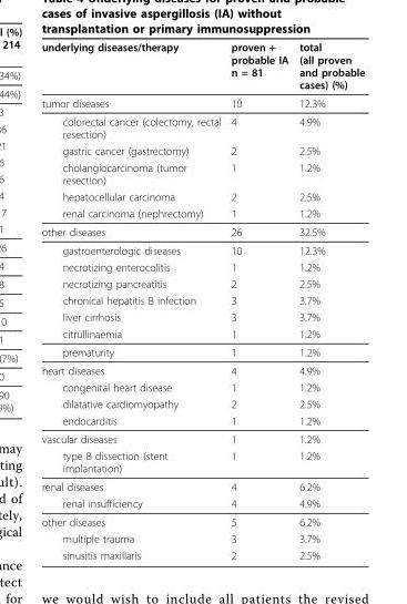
<table><thead><tr><td>underlying diseases/therapy</td><td>proven + probable IA n = 81</td><td>total (all proven and probable cases) (%)</td></tr></thead><tbody><tr><td>tumor diseases</td><td>10</td><td>12.3%</td></tr><tr><td>colorectal cancer (colectomy, rectal resection)</td><td>4</td><td>4.9%</td></tr><tr><td>gastric cancer (gastrectomy)</td><td>2</td><td>2.5%</td></tr><tr><td>cholangiocarcinoma (tumor resection)</td><td>1</td><td>1.2%</td></tr><tr><td>hepatocellular carcinoma</td><td>2</td><td>2.5%</td></tr><tr><td>renal carcinoma (nephrectomy)</td><td>1</td><td>1.2%</td></tr><tr><td>other diseases</td><td>26</td><td>32.5%</td></tr><tr><td>gastroenterologic diseases</td><td>10</td><td>12.3%</td></tr><tr><td>necrotizing enterocolitis</td><td>1</td><td>1.2%</td></tr><tr><td>necrotizing pancreatitis</td><td>2</td><td>2.5%</td></tr><tr><td>chronical hepatitis B infection</td><td>3</td><td>3.7%</td></tr><tr><td>liver cirrhosis</td><td>3</td><td>3.7%</td></tr><tr><td>citrullinaemia</td><td>1</td><td>1.2%</td></tr><tr><td>prematurity</td><td>1</td><td>1.2%</td></tr><tr><td>heart diseases</td><td>4</td><td>4.9%</td></tr><tr><td>congenital heart disease</td><td>1</td><td>1.2%</td></tr><tr><td>dilatative cardiomyopathy</td><td>2</td><td>2.5%</td></tr><tr><td>endocarditis</td><td>1</td><td>1.2%</td></tr><tr><td>vascular diseases</td><td>1</td><td>1.2%</td></tr><tr><td>type B dissection (stent implantation)</td><td>1</td><td>1.2%</td></tr><tr><td>renal diseases</td><td>4</td><td>6.2%</td></tr><tr><td>renal insufficiency</td><td>4</td><td>4.9%</td></tr><tr><td>other diseases</td><td>5</td><td>6.2%</td></tr><tr><td>multiple trauma</td><td>3</td><td>3.7%</td></tr><tr><td>sinusitis maxillaris</td><td>2</td><td>2.5%</td></tr></tbody></table>